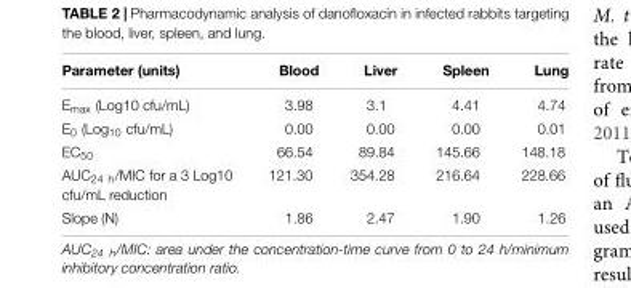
<table><thead><tr><td>Parameter (units)</td><td>Blood</td><td>Liver</td><td>Spleen</td><td>Lung</td></tr></thead><tbody><tr><td>E<sub>max</sub> (Log10 cfu/mL)</td><td>3.98</td><td>3.1</td><td>4.41</td><td>4.74</td></tr><tr><td>E<sub>0</sub> (Log<sub>10</sub> cfu/mL)</td><td>0.00</td><td>0.00</td><td>0.00</td><td>0.01</td></tr><tr><td>EC<sub>50</sub></td><td>66.54</td><td>89.84</td><td>145.66</td><td>148.18</td></tr><tr><td>AUC<sub>24 h</sub>/MIC for a 3 Log10 cfu/mL reduction</td><td>121.30</td><td>354.28</td><td>216.64</td><td>228.66</td></tr><tr><td>Slope (N)</td><td>1.86</td><td>2.47</td><td>1.90</td><td>1.26</td></tr></tbody></table>